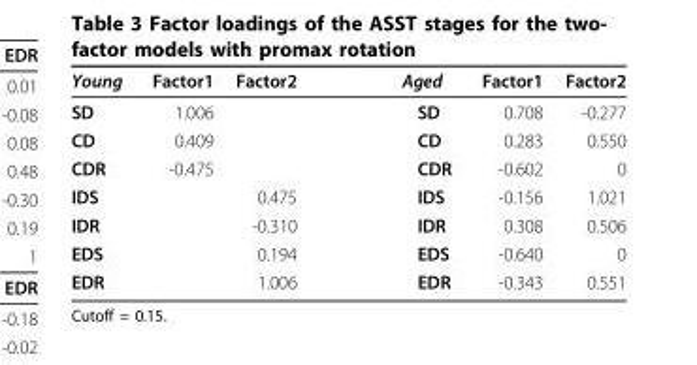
<table><thead><tr><td>Young</td><td>Factor1</td><td>Factor2</td><td>Aged</td><td>Factor1</td><td>Factor2</td></tr></thead><tbody><tr><td>SD</td><td>1.006</td><td></td><td>SD</td><td>0.708</td><td>-0.277</td></tr><tr><td>CD</td><td>0.409</td><td></td><td>CD</td><td>0.283</td><td>0.550</td></tr><tr><td>CDR</td><td>-0.475</td><td></td><td>CDR</td><td>-0.602</td><td>0</td></tr><tr><td>IDS</td><td></td><td>0.475</td><td>IDS</td><td>-0.156</td><td>1.021</td></tr><tr><td>IDR</td><td></td><td>-0.310</td><td>IDR</td><td>0.308</td><td>0.506</td></tr><tr><td>EDS</td><td></td><td>0.194</td><td>EDS</td><td>-0.640</td><td>0</td></tr><tr><td>EDR</td><td></td><td>1.006</td><td>EDR</td><td>-0.343</td><td>0.551</td></tr></tbody></table>